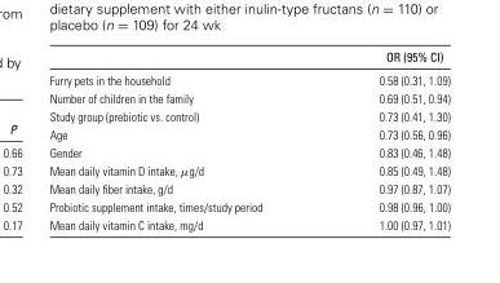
<table><thead><tr><td></td><td>OR (95% CI)</td></tr></thead><tbody><tr><td>Furry pets in the household</td><td>0.58 (0.31, 1.09)</td></tr><tr><td>Number of children in the family</td><td>0.69 (0.51, 0.94)</td></tr><tr><td>Study group (prebiotic vs. control)</td><td>0.73 (0.41, 1.30)</td></tr><tr><td>Age</td><td>0.73 (0.56, 0.96)</td></tr><tr><td>Gender</td><td>0.83 (0.46, 1.48)</td></tr><tr><td>Mean daily vitamin D intake, μg/d</td><td>0.85 (0.49, 1.48)</td></tr><tr><td>Mean daily fiber intake, g/d</td><td>0.97 (0.87, 1.07)</td></tr><tr><td>Probiotic supplement intake, times/study period</td><td>0.98 (0.96, 1.00)</td></tr><tr><td>Mean daily vitamin C intake, mg/d</td><td>1.00 (0.97, 1.01)</td></tr></tbody></table>